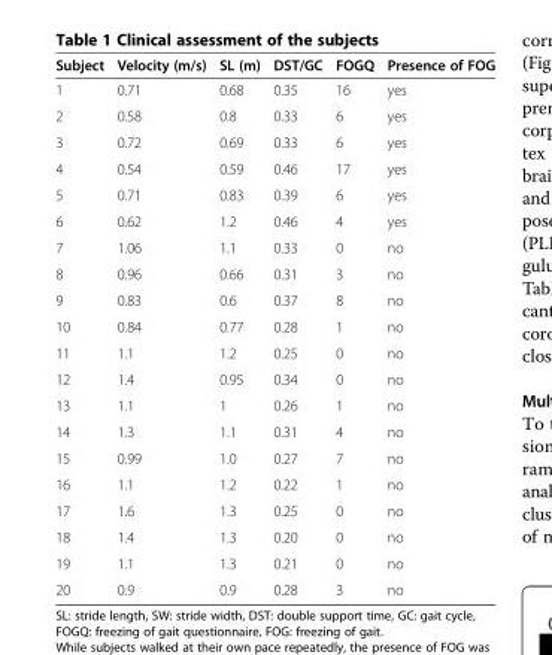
<table><thead><tr><td>Subject</td><td>Velocity (m/s)</td><td>SL (m)</td><td>DST/GC</td><td>FOGQ</td><td>Presence of FOG</td></tr></thead><tbody><tr><td>1</td><td>0.71</td><td>0.68</td><td>0.35</td><td>16</td><td>yes</td></tr><tr><td>2</td><td>0.58</td><td>0.8</td><td>0.33</td><td>6</td><td>yes</td></tr><tr><td>3</td><td>0.72</td><td>0.69</td><td>0.33</td><td>6</td><td>yes</td></tr><tr><td>4</td><td>0.54</td><td>0.59</td><td>0.46</td><td>17</td><td>yes</td></tr><tr><td>5</td><td>0.71</td><td>0.83</td><td>0.39</td><td>6</td><td>yes</td></tr><tr><td>6</td><td>0.62</td><td>1.2</td><td>0.46</td><td>4</td><td>yes</td></tr><tr><td>7</td><td>1.06</td><td>1.1</td><td>0.33</td><td>0</td><td>no</td></tr><tr><td>8</td><td>0.96</td><td>0.66</td><td>0.31</td><td>3</td><td>no</td></tr><tr><td>9</td><td>0.83</td><td>0.6</td><td>0.37</td><td>8</td><td>no</td></tr><tr><td>10</td><td>0.84</td><td>0.77</td><td>0.28</td><td>1</td><td>no</td></tr><tr><td>11</td><td>1.1</td><td>1.2</td><td>0.25</td><td>0</td><td>no</td></tr><tr><td>12</td><td>1.4</td><td>0.95</td><td>0.34</td><td>0</td><td>no</td></tr><tr><td>13</td><td>1.1</td><td>1</td><td>0.26</td><td>1</td><td>no</td></tr><tr><td>14</td><td>1.3</td><td>1.1</td><td>0.31</td><td>4</td><td>no</td></tr><tr><td>15</td><td>0.99</td><td>1.0</td><td>0.27</td><td>7</td><td>no</td></tr><tr><td>16</td><td>1.1</td><td>1.2</td><td>0.22</td><td>1</td><td>no</td></tr><tr><td>17</td><td>1.6</td><td>1.3</td><td>0.25</td><td>0</td><td>no</td></tr><tr><td>18</td><td>1.4</td><td>1.3</td><td>0.20</td><td>0</td><td>no</td></tr><tr><td>19</td><td>1.1</td><td>1.3</td><td>0.21</td><td>0</td><td>no</td></tr><tr><td>20</td><td>0.9</td><td>0.9</td><td>0.28</td><td>3</td><td>no</td></tr></tbody></table>